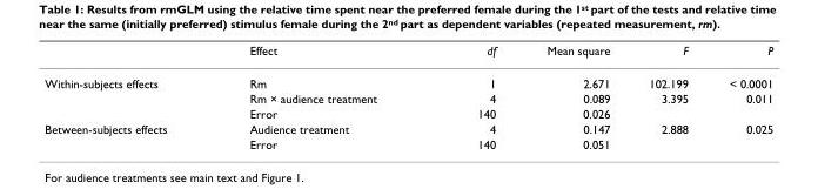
<table><thead><tr><td></td><td>Effect</td><td>df</td><td>Mean square</td><td>F</td><td>P</td></tr></thead><tbody><tr><td rowspan="3">Within-subjects effects</td><td>Rm</td><td>1</td><td>2.671</td><td>102.199</td><td>&lt; 0.0001</td></tr><tr><td>Rm × audience treatment</td><td>4</td><td>0.089</td><td>3.395</td><td>0.011</td></tr><tr><td>Error</td><td>140</td><td>0.026</td><td></td><td></td></tr><tr><td rowspan="2">Between-subjects effects</td><td>Audience treatment</td><td>4</td><td>0.147</td><td>2.888</td><td>0.025</td></tr><tr><td>Error</td><td>140</td><td>0.051</td><td></td><td></td></tr></tbody></table>